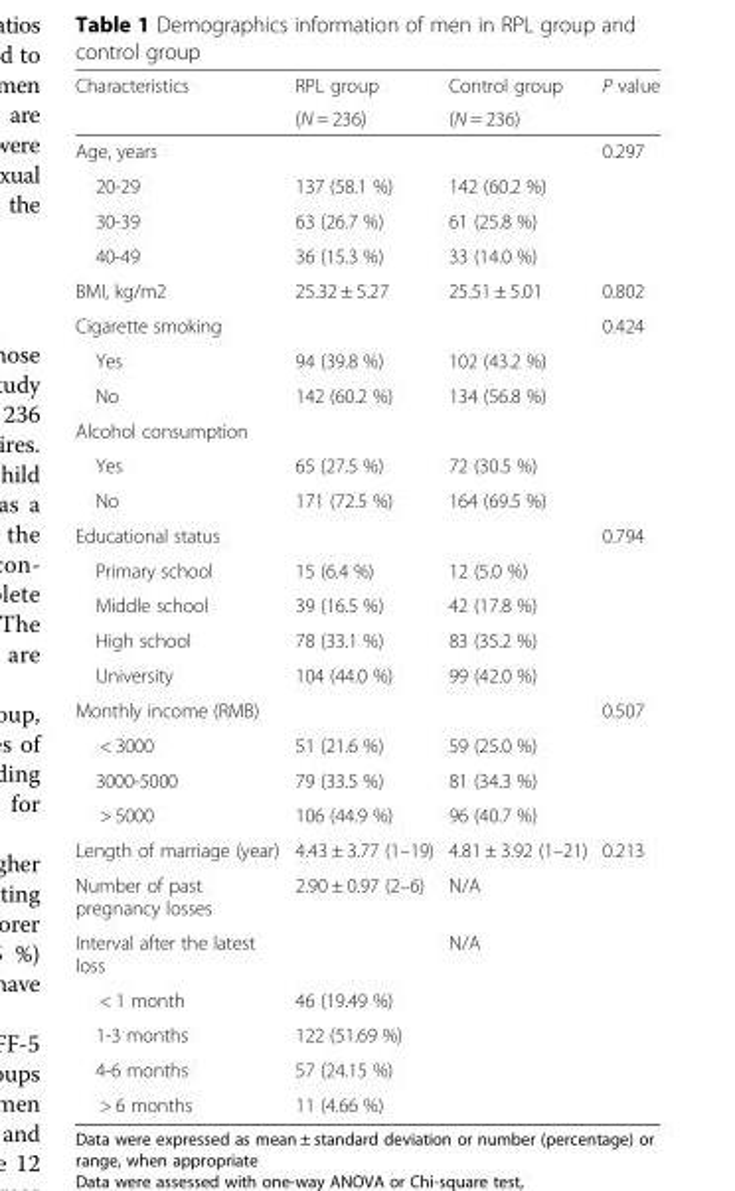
<table><thead><tr><td rowspan="2">Characteristics</td><td rowspan="2">RPL group (N = 236)</td><td rowspan="2">Control group (N = 236)</td><td rowspan="2">P value</td></tr><tr></tr></thead><tbody><tr><td>Age, years</td><td></td><td></td><td>0.297</td></tr><tr><td>20-29</td><td>137 (58.1 %)</td><td>142 (60.2 %)</td><td></td></tr><tr><td>30-39</td><td>63 (26.7 %)</td><td>61 (25.8 %)</td><td></td></tr><tr><td>40-49</td><td>36 (15.3 %)</td><td>33 (14.0 %)</td><td></td></tr><tr><td>BMI, kg/m2</td><td>25.32 ± 5.27</td><td>25.51 ± 5.01</td><td>0.802</td></tr><tr><td>Cigarette smoking</td><td></td><td></td><td>0.424</td></tr><tr><td>Yes</td><td>94 (39.8 %)</td><td>102 (43.2 %)</td><td></td></tr><tr><td>No</td><td>142 (60.2 %)</td><td>134 (56.8 %)</td><td></td></tr><tr><td colspan="4">Alcohol consumption</td></tr><tr><td>Yes</td><td>65 (27.5 %)</td><td>72 (30.5 %)</td><td></td></tr><tr><td>No</td><td>171 (72.5 %)</td><td>164 (69.5 %)</td><td></td></tr><tr><td>Educational status</td><td></td><td></td><td>0.794</td></tr><tr><td>Primary school</td><td>15 (6.4 %)</td><td>12 (5.0 %)</td><td></td></tr><tr><td>Middle school</td><td>39 (16.5 %)</td><td>42 (17.8 %)</td><td></td></tr><tr><td>High school</td><td>78 (33.1 %)</td><td>83 (35.2 %)</td><td></td></tr><tr><td>University</td><td>104 (44.0 %)</td><td>99 (42.0 %)</td><td></td></tr><tr><td>Monthly income (RMB)</td><td></td><td></td><td>0.507</td></tr><tr><td>&lt; 3000</td><td>51 (21.6 %)</td><td>59 (25.0 %)</td><td></td></tr><tr><td>3000-5000</td><td>79 (33.5 %)</td><td>81 (34.3 %)</td><td></td></tr><tr><td>&gt; 5000</td><td>106 (44.9 %)</td><td>96 (40.7 %)</td><td></td></tr><tr><td>Length of marriage (year)</td><td>4.43 ± 3.77 (1–19)</td><td>4.81 ± 3.92 (1–21)</td><td>0.213</td></tr><tr><td>Number of past pregnancy losses</td><td>2.90 ± 0.97 (2–6)</td><td>N/A</td><td></td></tr><tr><td>Interval after the latest loss</td><td></td><td>N/A</td><td></td></tr><tr><td>&lt; 1 month</td><td>46 (19.49 %)</td><td></td><td></td></tr><tr><td>1-3 months</td><td>122 (51.69 %)</td><td></td><td></td></tr><tr><td>4-6 months</td><td>57 (24.15 %)</td><td></td><td></td></tr><tr><td>&gt; 6 months</td><td>11 (4.66 %)</td><td></td><td></td></tr></tbody></table>